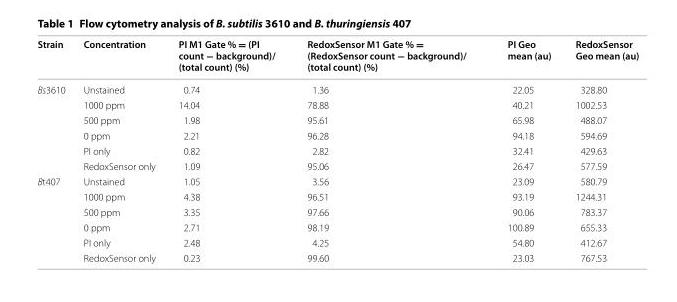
<table><thead><tr><td>Strain</td><td>Concentration</td><td>PI M1 Gate % = (PI count − background)/ (total count) (%)</td><td>RedoxSensor M1 Gate % = (RedoxSensor count − background)/ (total count) (%)</td><td>PI Geo mean (au)</td><td>RedoxSensor Geo mean (au)</td></tr></thead><tbody><tr><td rowspan="6">Bs3610</td><td>Unstained</td><td>0.74</td><td>1.36</td><td>22.05</td><td>328.80</td></tr><tr><td>1000 ppm</td><td>14.04</td><td>78.88</td><td>40.21</td><td>1002.53</td></tr><tr><td>500 ppm</td><td>1.98</td><td>95.61</td><td>65.98</td><td>488.07</td></tr><tr><td>0 ppm</td><td>2.21</td><td>96.28</td><td>94.18</td><td>594.69</td></tr><tr><td>PI only</td><td>0.82</td><td>2.82</td><td>32.41</td><td>429.63</td></tr><tr><td>RedoxSensor only</td><td>1.09</td><td>95.06</td><td>26.47</td><td>577.59</td></tr><tr><td rowspan="6">Bt407</td><td>Unstained</td><td>1.05</td><td>3.56</td><td>23.09</td><td>580.79</td></tr><tr><td>1000 ppm</td><td>4.38</td><td>96.51</td><td>93.19</td><td>1244.31</td></tr><tr><td>500 ppm</td><td>3.35</td><td>97.66</td><td>90.06</td><td>783.37</td></tr><tr><td>0 ppm</td><td>2.71</td><td>98.19</td><td>100.89</td><td>655.33</td></tr><tr><td>PI only</td><td>2.48</td><td>4.25</td><td>54.80</td><td>412.67</td></tr><tr><td>RedoxSensor only</td><td>0.23</td><td>99.60</td><td>23.03</td><td>767.53</td></tr></tbody></table>